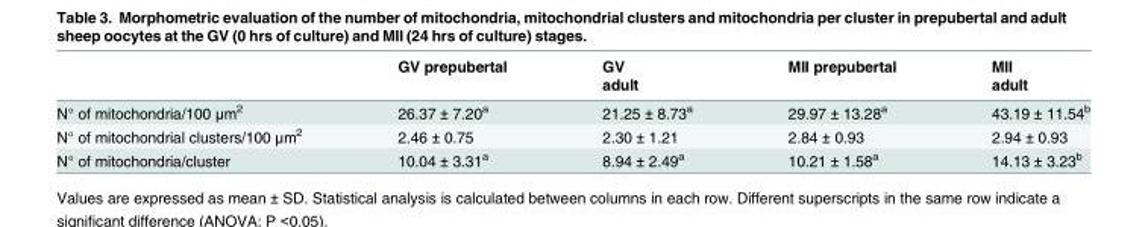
<table><thead><tr><td rowspan="2"></td><td rowspan="2">GV prepubertal</td><td rowspan="2">GV adult</td><td rowspan="2">MII prepubertal</td><td rowspan="2">MII adult</td></tr><tr></tr></thead><tbody><tr><td>N° of mitochondria/100 μm<sup>2</sup></td><td>26.37 ± 7.20<sup>a</sup></td><td>21.25 ± 8.73<sup>a</sup></td><td>29.97 ± 13.28<sup>a</sup></td><td>43.19 ± 11.54<sup>b</sup></td></tr><tr><td>N° of mitochondrial clusters/100 μm<sup>2</sup></td><td>2.46 ± 0.75</td><td>2.30 ± 1.21</td><td>2.84 ± 0.93</td><td>2.94 ± 0.93</td></tr><tr><td>N° of mitochondria/cluster</td><td>10.04 ± 3.31<sup>a</sup></td><td>8.94 ± 2.49<sup>a</sup></td><td>10.21 ± 1.58<sup>a</sup></td><td>14.13 ± 3.23<sup>b</sup></td></tr></tbody></table>